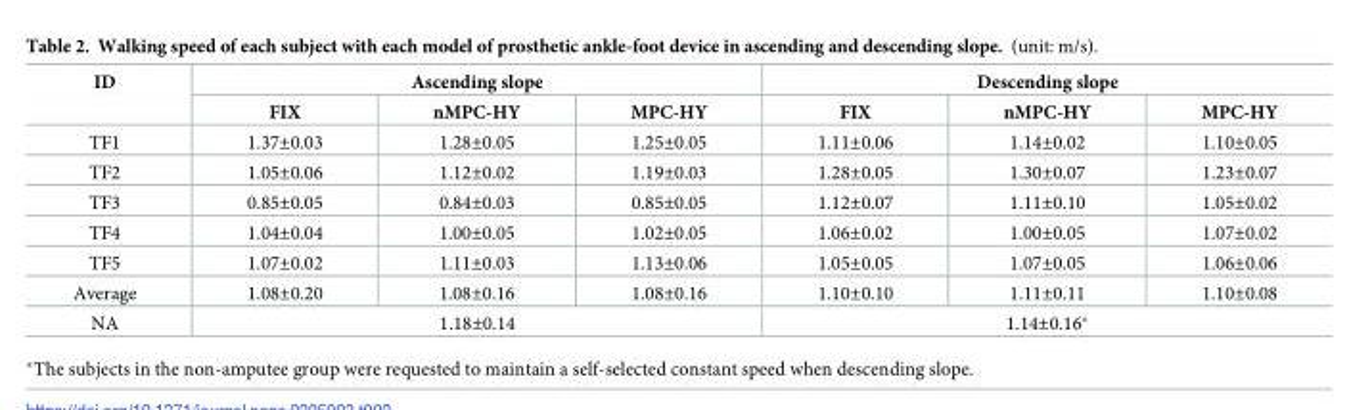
<table><thead><tr><td rowspan="2">ID</td><td colspan="3">Ascending slope</td><td colspan="3">Descending slope</td></tr><tr><td>FIX</td><td>nMPC-HY</td><td>MPC-HY</td><td>FIX</td><td>nMPC-HY</td><td>MPC-HY</td></tr></thead><tbody><tr><td>TF1</td><td>1.37±0.03</td><td>1.28±0.05</td><td>1.25±0.05</td><td>1.11±0.06</td><td>1.14±0.02</td><td>1.10±0.05</td></tr><tr><td>TF2</td><td>1.05±0.06</td><td>1.12±0.02</td><td>1.19±0.03</td><td>1.28±0.05</td><td>1.30±0.07</td><td>1.23±0.07</td></tr><tr><td>TF3</td><td>0.85±0.05</td><td>0.84±0.03</td><td>0.85±0.05</td><td>1.12±0.07</td><td>1.11±0.10</td><td>1.05±0.02</td></tr><tr><td>TF4</td><td>1.04±0.04</td><td>1.00±0.05</td><td>1.02±0.05</td><td>1.06±0.02</td><td>1.00±0.05</td><td>1.07±0.02</td></tr><tr><td>TF5</td><td>1.07±0.02</td><td>1.11±0.03</td><td>1.13±0.06</td><td>1.05±0.05</td><td>1.07±0.05</td><td>1.06±0.06</td></tr><tr><td>Average</td><td>1.08±0.20</td><td>1.08±0.16</td><td>1.08±0.16</td><td>1.10±0.10</td><td>1.11±0.11</td><td>1.10±0.08</td></tr><tr><td>NA</td><td colspan="3">1.18±0.14</td><td colspan="3">1.14±0.16*</td></tr></tbody></table>